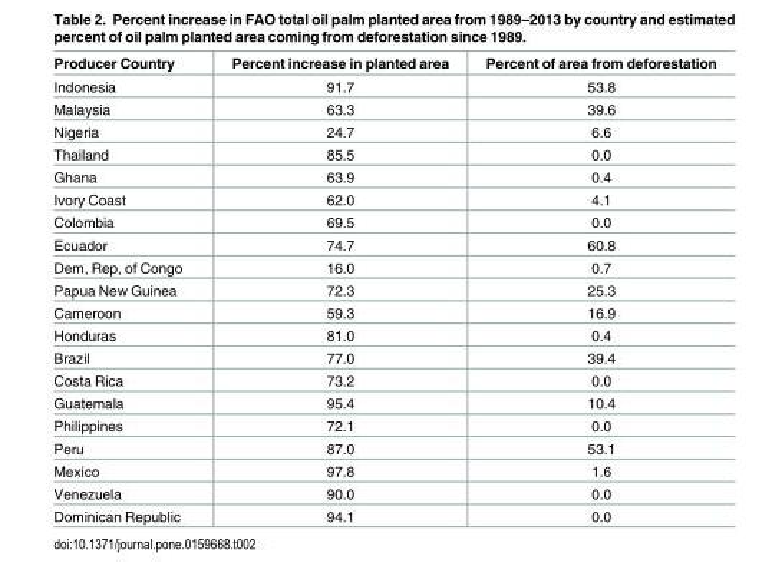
<table><thead><tr><td>Producer Country</td><td>Percent increase in planted area</td><td>Percent of area from deforestation</td></tr></thead><tbody><tr><td>Indonesia</td><td>91.7</td><td>53.8</td></tr><tr><td>Malaysia</td><td>63.3</td><td>39.6</td></tr><tr><td>Nigeria</td><td>24.7</td><td>6.6</td></tr><tr><td>Thailand</td><td>85.5</td><td>0.0</td></tr><tr><td>Ghana</td><td>63.9</td><td>0.4</td></tr><tr><td>Ivory Coast</td><td>62.0</td><td>4.1</td></tr><tr><td>Colombia</td><td>69.5</td><td>0.0</td></tr><tr><td>Ecuador</td><td>74.7</td><td>60.8</td></tr><tr><td>Dem, Rep, of Congo</td><td>16.0</td><td>0.7</td></tr><tr><td>Papua New Guinea</td><td>72.3</td><td>25.3</td></tr><tr><td>Cameroon</td><td>59.3</td><td>16.9</td></tr><tr><td>Honduras</td><td>81.0</td><td>0.4</td></tr><tr><td>Brazil</td><td>77.0</td><td>39.4</td></tr><tr><td>Costa Rica</td><td>73.2</td><td>0.0</td></tr><tr><td>Guatemala</td><td>95.4</td><td>10.4</td></tr><tr><td>Philippines</td><td>72.1</td><td>0.0</td></tr><tr><td>Peru</td><td>87.0</td><td>53.1</td></tr><tr><td>Mexico</td><td>97.8</td><td>1.6</td></tr><tr><td>Venezuela</td><td>90.0</td><td>0.0</td></tr><tr><td>Dominican Republic</td><td>94.1</td><td>0.0</td></tr></tbody></table>